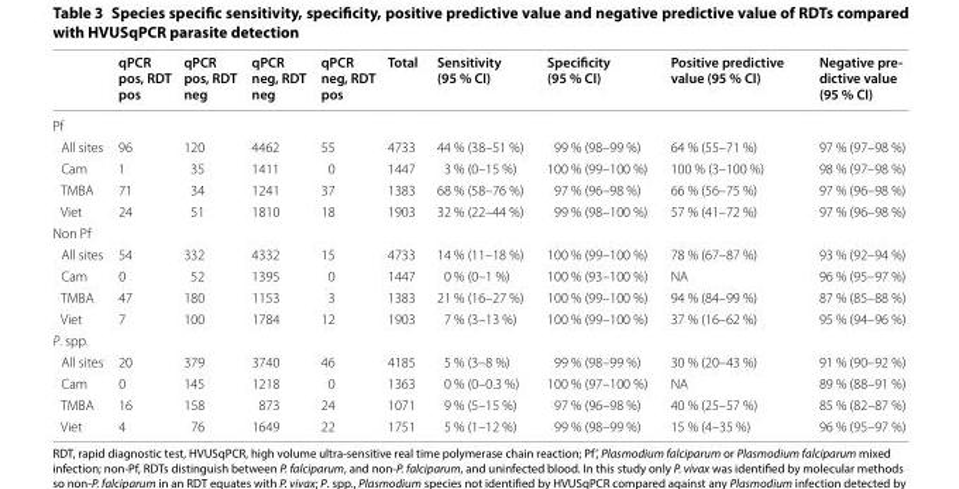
<table><thead><tr><td></td><td>qPCR pos, RDT pos</td><td>qPCR pos, RDT neg</td><td>qPCR neg, RDT neg</td><td>qPCR neg, RDT pos</td><td>Total</td><td>Sensitivity (95 % CI)</td><td>Specificity (95 % CI)</td><td>Positive predictive value (95 % CI)</td><td>Negative pre- dictive value (95 % CI)</td></tr></thead><tbody><tr><td colspan="10">Pf</td></tr><tr><td>All sites</td><td>96</td><td>120</td><td>4462</td><td>55</td><td>4733</td><td>44 % (38–51 %)</td><td>99 % (98–99 %)</td><td>64 % (55–71 %)</td><td>97 % (97–98 %)</td></tr><tr><td>Cam</td><td>1</td><td>35</td><td>1411</td><td>0</td><td>1447</td><td>3 % (0–15 %)</td><td>100 % (99–100 %)</td><td>100 % (3–100 %)</td><td>98 % (97–98 %)</td></tr><tr><td>TMBA</td><td>71</td><td>34</td><td>1241</td><td>37</td><td>1383</td><td>68 % (58–76 %)</td><td>97 % (96–98 %)</td><td>66 % (56–75 %)</td><td>97 % (96–98 %)</td></tr><tr><td>Viet</td><td>24</td><td>51</td><td>1810</td><td>18</td><td>1903</td><td>32 % (22–44 %)</td><td>99 % (98–100 %)</td><td>57 % (41–72 %)</td><td>97 % (96–98 %)</td></tr><tr><td colspan="10">Non Pf</td></tr><tr><td>All sites</td><td>54</td><td>332</td><td>4332</td><td>15</td><td>4733</td><td>14 % (11–18 %)</td><td>100 % (99–100 %)</td><td>78 % (67–87 %)</td><td>93 % (92–94 %)</td></tr><tr><td>Cam</td><td>0</td><td>52</td><td>1395</td><td>0</td><td>1447</td><td>0 % (0–1 %)</td><td>100 % (93–100 %)</td><td>NA</td><td>96 % (95–97 %)</td></tr><tr><td>TMBA</td><td>47</td><td>180</td><td>1153</td><td>3</td><td>1383</td><td>21 % (16–27 %)</td><td>100 % (99–100 %)</td><td>94 % (84–99 %)</td><td>87 % (85–88 %)</td></tr><tr><td>Viet</td><td>7</td><td>100</td><td>1784</td><td>12</td><td>1903</td><td>7 % (3–13 %)</td><td>100 % (99–100 %)</td><td>37 % (16–62 %)</td><td>95 % (94–96 %)</td></tr><tr><td colspan="10">P. spp.</td></tr><tr><td>All sites</td><td>20</td><td>379</td><td>3740</td><td>46</td><td>4185</td><td>5 % (3–8 %)</td><td>99 % (98–99 %)</td><td>30 % (20–43 %)</td><td>91 % (90–92 %)</td></tr><tr><td>Cam</td><td>0</td><td>145</td><td>1218</td><td>0</td><td>1363</td><td>0 % (0–0.3 %)</td><td>100 % (97–100 %)</td><td>NA</td><td>89 % (88–91 %)</td></tr><tr><td>TMBA</td><td>16</td><td>158</td><td>873</td><td>24</td><td>1071</td><td>9 % (5–15 %)</td><td>97 % (96–98 %)</td><td>40 % (25–57 %)</td><td>85 % (82–87 %)</td></tr><tr><td>Viet</td><td>4</td><td>76</td><td>1649</td><td>22</td><td>1751</td><td>5 % (1–12 %)</td><td>99 % (98–99 %)</td><td>15 % (4–35 %)</td><td>96 % (95–97 %)</td></tr></tbody></table>